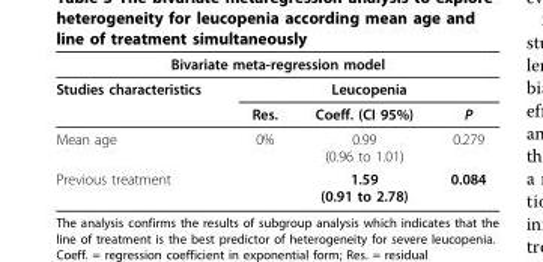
<table><thead><tr><td colspan="4">Bivariate meta-regression model</td></tr><tr><td rowspan="2">Studies characteristics</td><td colspan="3">Leucopenia</td></tr><tr><td>Res.</td><td>Coeff. (CI 95%)</td><td>P</td></tr></thead><tbody><tr><td>Mean age</td><td>0%</td><td>0.99 (0.96 to 1.01)</td><td>0.279</td></tr><tr><td>Previous treatment</td><td></td><td>1.59 (0.91 to 2.78)</td><td>0.084</td></tr></tbody></table>